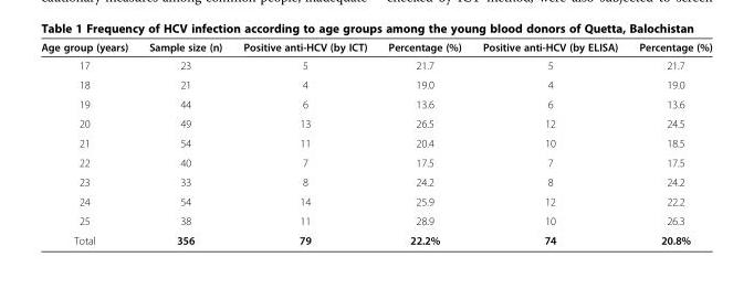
<table><thead><tr><td>Age group (years)</td><td>Sample size (n)</td><td>Positive anti-HCV (by ICT)</td><td>Percentage (%)</td><td>Positive anti-HCV (by ELISA)</td><td>Percentage (%)</td></tr></thead><tbody><tr><td>17</td><td>23</td><td>5</td><td>21.7</td><td>5</td><td>21.7</td></tr><tr><td>18</td><td>21</td><td>4</td><td>19.0</td><td>4</td><td>19.0</td></tr><tr><td>19</td><td>44</td><td>6</td><td>13.6</td><td>6</td><td>13.6</td></tr><tr><td>20</td><td>49</td><td>13</td><td>26.5</td><td>12</td><td>24.5</td></tr><tr><td>21</td><td>54</td><td>11</td><td>20.4</td><td>10</td><td>18.5</td></tr><tr><td>22</td><td>40</td><td>7</td><td>17.5</td><td>7</td><td>17.5</td></tr><tr><td>23</td><td>33</td><td>8</td><td>24.2</td><td>8</td><td>24.2</td></tr><tr><td>24</td><td>54</td><td>14</td><td>25.9</td><td>12</td><td>22.2</td></tr><tr><td>25</td><td>38</td><td>11</td><td>28.9</td><td>10</td><td>26.3</td></tr><tr><td>Total</td><td>356</td><td>79</td><td>22.2%</td><td>74</td><td>20.8%</td></tr></tbody></table>